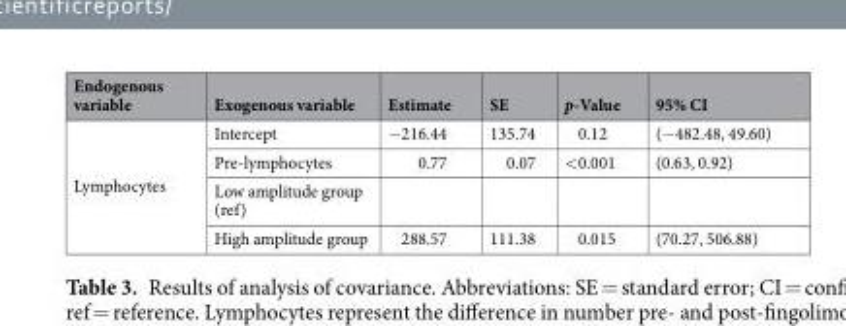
<table><thead><tr><td>Endogenous variable</td><td>Exogenous variable</td><td>Estimate</td><td>SE</td><td>p-Value</td><td>95% CI</td></tr></thead><tbody><tr><td rowspan="4">Lymphocytes</td><td>Intercept</td><td>−216.44</td><td>135.74</td><td>0.12</td><td>(−482.48, 49.60)</td></tr><tr><td>Pre-lymphocytes</td><td>0.77</td><td>0.07</td><td>&lt;0.001</td><td>(0.63, 0.92)</td></tr><tr><td>Low amplitude group (ref)</td><td></td><td></td><td></td><td></td></tr><tr><td>High amplitude group</td><td>288.57</td><td>111.38</td><td>0.015</td><td>(70.27, 506.88)</td></tr></tbody></table>